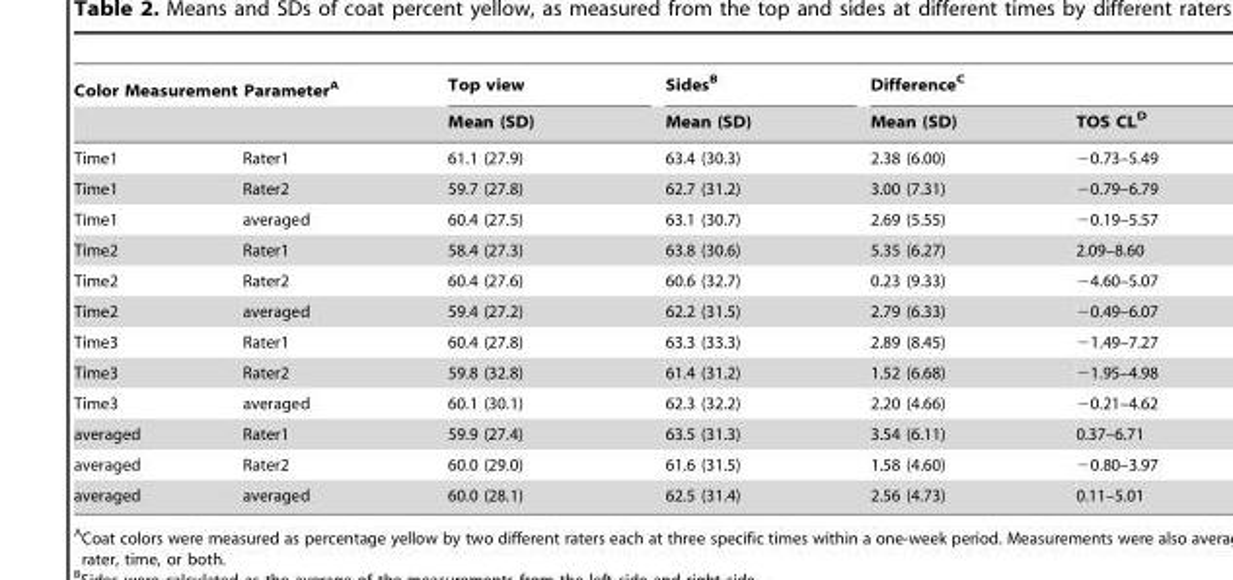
<table><thead><tr><td colspan="2">Color Measurement Parameter<sup>A</sup></td><td rowspan="2">Top view Mean (SD)</td><td rowspan="2">Sides<sup>B</sup> Mean (SD)</td><td colspan="2">Difference<sup>C</sup></td></tr><tr><td></td><td></td><td>Mean (SD)</td><td>TOS CL<sup>D</sup></td></tr></thead><tbody><tr><td>Time1</td><td>Rater1</td><td>61.1 (27.9)</td><td>63.4 (30.3)</td><td>2.38 (6.00)</td><td>−0.73–5.49</td></tr><tr><td>Time1</td><td>Rater2</td><td>59.7 (27.8)</td><td>62.7 (31.2)</td><td>3.00 (7.31)</td><td>−0.79–6.79</td></tr><tr><td>Time1</td><td>averaged</td><td>60.4 (27.5)</td><td>63.1 (30.7)</td><td>2.69 (5.55)</td><td>−0.19–5.57</td></tr><tr><td>Time2</td><td>Rater1</td><td>58.4 (27.3)</td><td>63.8 (30.6)</td><td>5.35 (6.27)</td><td>2.09–8.60</td></tr><tr><td>Time2</td><td>Rater2</td><td>60.4 (27.6)</td><td>60.6 (32.7)</td><td>0.23 (9.33)</td><td>−4.60–5.07</td></tr><tr><td>Time2</td><td>averaged</td><td>59.4 (27.2)</td><td>62.2 (31.5)</td><td>2.79 (6.33)</td><td>−0.49–6.07</td></tr><tr><td>Time3</td><td>Rater1</td><td>60.4 (27.8)</td><td>63.3 (33.3)</td><td>2.89 (8.45)</td><td>−1.49–7.27</td></tr><tr><td>Time3</td><td>Rater2</td><td>59.8 (32.8)</td><td>61.4 (31.2)</td><td>1.52 (6.68)</td><td>−1.95–4.98</td></tr><tr><td>Time3</td><td>averaged</td><td>60.1 (30.1)</td><td>62.3 (32.2)</td><td>2.20 (4.66)</td><td>−0.21–4.62</td></tr><tr><td>averaged</td><td>Rater1</td><td>59.9 (27.4)</td><td>63.5 (31.3)</td><td>3.54 (6.11)</td><td>0.37–6.71</td></tr><tr><td>averaged</td><td>Rater2</td><td>60.0 (29.0)</td><td>61.6 (31.5)</td><td>1.58 (4.60)</td><td>−0.80–3.97</td></tr><tr><td>averaged</td><td>averaged</td><td>60.0 (28.1)</td><td>62.5 (31.4)</td><td>2.56 (4.73)</td><td>0.11–5.01</td></tr></tbody></table>